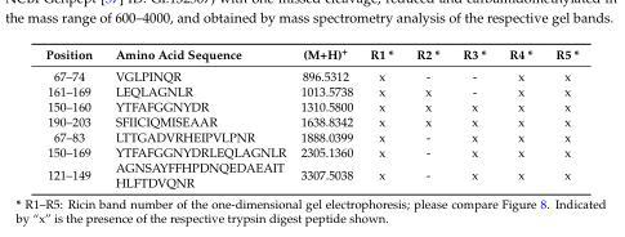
<table><thead><tr><td>Position</td><td>Amino Acid Sequence</td><td>(M+H)<sup>+</sup></td><td>R1 *</td><td>R2 *</td><td>R3 *</td><td>R4 *</td><td>R5 *</td></tr></thead><tbody><tr><td>67–74</td><td>VGLPINQR</td><td>896.5312</td><td>x</td><td>-</td><td>-</td><td>x</td><td>x</td></tr><tr><td>161–169</td><td>LEQLAGNLR</td><td>1013.5738</td><td>x</td><td>x</td><td>-</td><td>x</td><td>x</td></tr><tr><td>150–160</td><td>YTFAFGGNYDR</td><td>1310.5800</td><td>x</td><td>x</td><td>x</td><td>x</td><td>x</td></tr><tr><td>190–203</td><td>SFIICIQMISEAAR</td><td>1638.8342</td><td>x</td><td>x</td><td>x</td><td>x</td><td>x</td></tr><tr><td>67–83</td><td>LTTGADVRHEIPVLPNR</td><td>1888.0399</td><td>x</td><td>-</td><td>x</td><td>x</td><td>x</td></tr><tr><td>150–169</td><td>YTFAFGGNYDRLEQLAGNLR</td><td>2305.1360</td><td>x</td><td>-</td><td>x</td><td>x</td><td>x</td></tr><tr><td>121–149</td><td>AGNSAYFFHPDNQEDAEAIT HLFTDVQNR</td><td>3307.5038</td><td>x</td><td>-</td><td>x</td><td>x</td><td>x</td></tr></tbody></table>